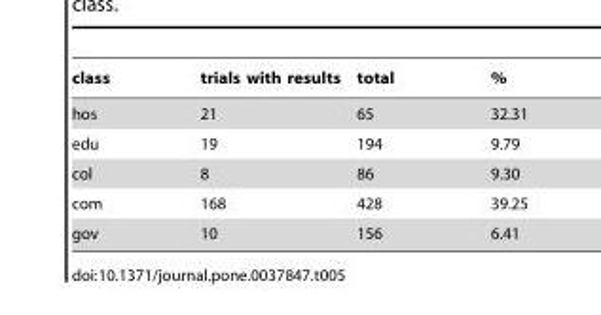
<table><thead><tr><td>class</td><td>trials with results</td><td>total</td><td>%</td></tr></thead><tbody><tr><td>hos</td><td>21</td><td>65</td><td>32.31</td></tr><tr><td>edu</td><td>19</td><td>194</td><td>9.79</td></tr><tr><td>col</td><td>8</td><td>86</td><td>9.30</td></tr><tr><td>com</td><td>168</td><td>428</td><td>39.25</td></tr><tr><td>gov</td><td>10</td><td>156</td><td>6.41</td></tr></tbody></table>